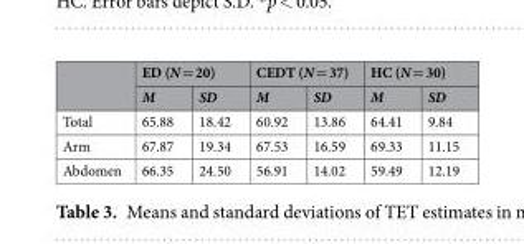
<table><thead><tr><td rowspan="2"></td><td colspan="2">ED (N = 20)</td><td colspan="2">CEDT (N = 37)</td><td colspan="2">HC (N = 30)</td></tr><tr><td>M</td><td>SD</td><td>M</td><td>SD</td><td>M</td><td>SD</td></tr></thead><tbody><tr><td>Total</td><td>65.88</td><td>18.42</td><td>60.92</td><td>13.86</td><td>64.41</td><td>9.84</td></tr><tr><td>Arm</td><td>67.87</td><td>19.34</td><td>67.53</td><td>16.59</td><td>69.33</td><td>11.15</td></tr><tr><td>Abdomen</td><td>66.35</td><td>24.50</td><td>56.91</td><td>14.02</td><td>59.49</td><td>12.19</td></tr></tbody></table>